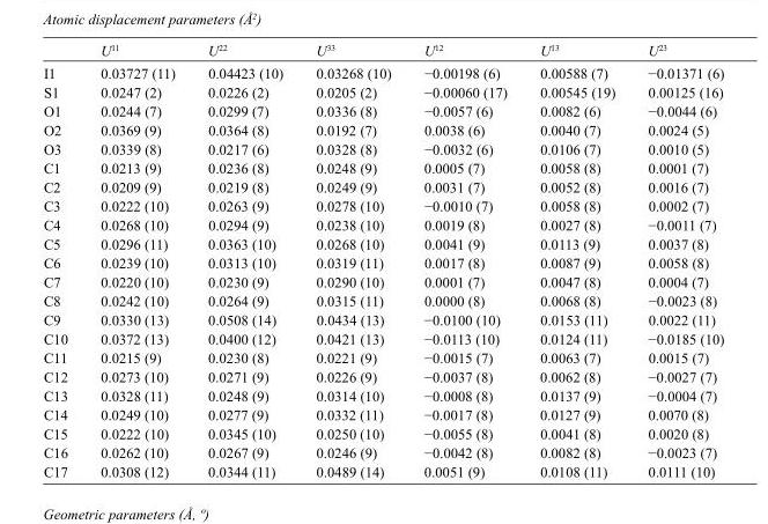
<table><thead><tr><td></td><td>U<sup>11</sup></td><td>U<sup>22</sup></td><td>U<sup>33</sup></td><td>U<sup>12</sup></td><td>U<sup>13</sup></td><td>U<sup>23</sup></td></tr></thead><tbody><tr><td>I1</td><td>0.03727 (11)</td><td>0.04423 (10)</td><td>0.03268 (10)</td><td>−0.00198 (6)</td><td>0.00588 (7)</td><td>−0.01371 (6)</td></tr><tr><td>S1</td><td>0.0247 (2)</td><td>0.0226 (2)</td><td>0.0205 (2)</td><td>−0.00060 (17)</td><td>0.00545 (19)</td><td>0.00125 (16)</td></tr><tr><td>O1</td><td>0.0244 (7)</td><td>0.0299 (7)</td><td>0.0336 (8)</td><td>−0.0057 (6)</td><td>0.0082 (6)</td><td>−0.0044 (6)</td></tr><tr><td>O2</td><td>0.0369 (9)</td><td>0.0364 (8)</td><td>0.0192 (7)</td><td>0.0038 (6)</td><td>0.0040 (7)</td><td>0.0024 (5)</td></tr><tr><td>O3</td><td>0.0339 (8)</td><td>0.0217 (6)</td><td>0.0328 (8)</td><td>−0.0032 (6)</td><td>0.0106 (7)</td><td>0.0010 (5)</td></tr><tr><td>C1</td><td>0.0213 (9)</td><td>0.0236 (8)</td><td>0.0248 (9)</td><td>0.0005 (7)</td><td>0.0058 (8)</td><td>0.0001 (7)</td></tr><tr><td>C2</td><td>0.0209 (9)</td><td>0.0219 (8)</td><td>0.0249 (9)</td><td>0.0031 (7)</td><td>0.0052 (8)</td><td>0.0016 (7)</td></tr><tr><td>C3</td><td>0.0222 (10)</td><td>0.0263 (9)</td><td>0.0278 (10)</td><td>−0.0010 (7)</td><td>0.0058 (8)</td><td>0.0002 (7)</td></tr><tr><td>C4</td><td>0.0268 (10)</td><td>0.0294 (9)</td><td>0.0238 (10)</td><td>0.0019 (8)</td><td>0.0027 (8)</td><td>−0.0011 (7)</td></tr><tr><td>C5</td><td>0.0296 (11)</td><td>0.0363 (10)</td><td>0.0268 (10)</td><td>0.0041 (9)</td><td>0.0113 (9)</td><td>0.0037 (8)</td></tr><tr><td>C6</td><td>0.0239 (10)</td><td>0.0313 (10)</td><td>0.0319 (11)</td><td>0.0017 (8)</td><td>0.0087 (9)</td><td>0.0058 (8)</td></tr><tr><td>C7</td><td>0.0220 (10)</td><td>0.0230 (9)</td><td>0.0290 (10)</td><td>0.0001 (7)</td><td>0.0047 (8)</td><td>0.0004 (7)</td></tr><tr><td>C8</td><td>0.0242 (10)</td><td>0.0264 (9)</td><td>0.0315 (11)</td><td>0.0000 (8)</td><td>0.0068 (8)</td><td>−0.0023 (8)</td></tr><tr><td>C9</td><td>0.0330 (13)</td><td>0.0508 (14)</td><td>0.0434 (13)</td><td>−0.0100 (10)</td><td>0.0153 (11)</td><td>0.0022 (11)</td></tr><tr><td>C10</td><td>0.0372 (13)</td><td>0.0400 (12)</td><td>0.0421 (13)</td><td>−0.0113 (10)</td><td>0.0124 (11)</td><td>−0.0185 (10)</td></tr><tr><td>C11</td><td>0.0215 (9)</td><td>0.0230 (8)</td><td>0.0221 (9)</td><td>−0.0015 (7)</td><td>0.0063 (7)</td><td>0.0015 (7)</td></tr><tr><td>C12</td><td>0.0273 (10)</td><td>0.0271 (9)</td><td>0.0226 (9)</td><td>−0.0037 (8)</td><td>0.0062 (8)</td><td>−0.0027 (7)</td></tr><tr><td>C13</td><td>0.0328 (11)</td><td>0.0248 (9)</td><td>0.0314 (10)</td><td>−0.0008 (8)</td><td>0.0137 (9)</td><td>−0.0004 (7)</td></tr><tr><td>C14</td><td>0.0249 (10)</td><td>0.0277 (9)</td><td>0.0332 (11)</td><td>−0.0017 (8)</td><td>0.0127 (9)</td><td>0.0070 (8)</td></tr><tr><td>C15</td><td>0.0222 (10)</td><td>0.0345 (10)</td><td>0.0250 (10)</td><td>−0.0055 (8)</td><td>0.0041 (8)</td><td>0.0020 (8)</td></tr><tr><td>C16</td><td>0.0262 (10)</td><td>0.0267 (9)</td><td>0.0246 (9)</td><td>−0.0042 (8)</td><td>0.0082 (8)</td><td>−0.0023 (7)</td></tr><tr><td>C17</td><td>0.0308 (12)</td><td>0.0344 (11)</td><td>0.0489 (14)</td><td>0.0051 (9)</td><td>0.0108 (11)</td><td>0.0111 (10)</td></tr></tbody></table>